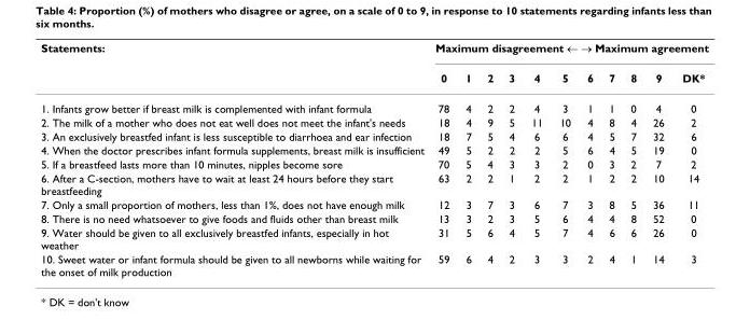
<table><thead><tr><td rowspan="2">Statements:</td><td colspan="11">Maximum disagreement ← → Maximum agreement</td></tr><tr><td>0</td><td>1</td><td>2</td><td>3</td><td>4</td><td>5</td><td>6</td><td>7</td><td>8</td><td>9</td><td>DK*</td></tr></thead><tbody><tr><td>1. Infants grow better if breast milk is complemented with infant formula</td><td>78</td><td>4</td><td>2</td><td>2</td><td>4</td><td>3</td><td>1</td><td>1</td><td>0</td><td>4</td><td>0</td></tr><tr><td>2. The milk of a mother who does not eat well does not meet the infant&#x27;s needs</td><td>18</td><td>4</td><td>9</td><td>5</td><td>11</td><td>10</td><td>4</td><td>8</td><td>4</td><td>26</td><td>2</td></tr><tr><td>3. An exclusively breastfed infant is less susceptible to diarrhoea and ear infection</td><td>18</td><td>7</td><td>5</td><td>4</td><td>6</td><td>6</td><td>4</td><td>5</td><td>7</td><td>32</td><td>6</td></tr><tr><td>4. When the doctor prescribes infant formula supplements, breast milk is insufficient</td><td>49</td><td>5</td><td>2</td><td>2</td><td>2</td><td>5</td><td>6</td><td>4</td><td>5</td><td>19</td><td>0</td></tr><tr><td>5. If a breastfeed lasts more than 10 minutes, nipples become sore</td><td>70</td><td>5</td><td>4</td><td>3</td><td>3</td><td>2</td><td>0</td><td>3</td><td>2</td><td>7</td><td>2</td></tr><tr><td>6. After a C-section, mothers have to wait at least 24 hours before they start breastfeeding</td><td>63</td><td>2</td><td>2</td><td>1</td><td>2</td><td>2</td><td>1</td><td>2</td><td>2</td><td>10</td><td>14</td></tr><tr><td>7. Only a small proportion of mothers, less than 1%, does not have enough milk</td><td>12</td><td>3</td><td>7</td><td>3</td><td>6</td><td>7</td><td>3</td><td>8</td><td>5</td><td>36</td><td>11</td></tr><tr><td>8. There is no need whatsoever to give foods and fluids other than breast milk</td><td>13</td><td>3</td><td>2</td><td>3</td><td>5</td><td>6</td><td>4</td><td>4</td><td>8</td><td>52</td><td>0</td></tr><tr><td>9. Water should be given to all exclusively breastfed infants, especially in hot weather</td><td>31</td><td>5</td><td>6</td><td>4</td><td>5</td><td>7</td><td>4</td><td>6</td><td>6</td><td>26</td><td>0</td></tr><tr><td>10. Sweet water or infant formula should be given to all newborns while waiting for the onset of milk production</td><td>59</td><td>6</td><td>4</td><td>2</td><td>3</td><td>3</td><td>2</td><td>4</td><td>1</td><td>14</td><td>3</td></tr></tbody></table>